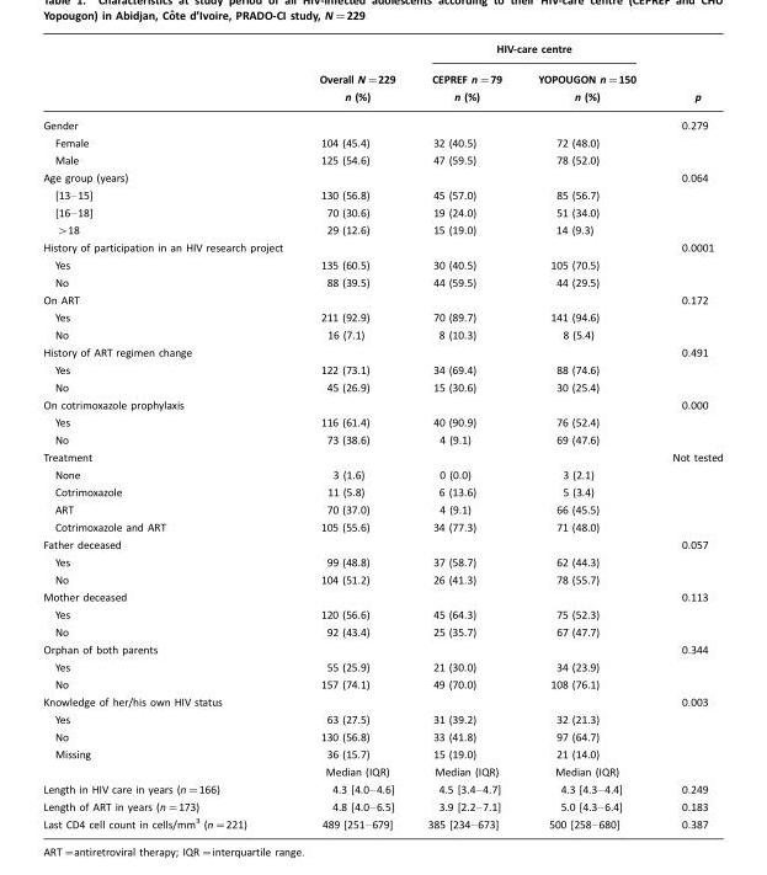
<table><thead><tr><td rowspan="2"></td><td rowspan="2">Overall N=229 n (%)</td><td colspan="2">HIV-care centre</td><td rowspan="2">p</td></tr><tr><td>CEPREF n=79 n (%)</td><td>YOPOUGON n=150 n (%)</td></tr></thead><tbody><tr><td>Gender</td><td></td><td></td><td></td><td>0.279</td></tr><tr><td>Female</td><td>104 (45.4)</td><td>32 (40.5)</td><td>72 (48.0)</td><td></td></tr><tr><td>Male</td><td>125 (54.6)</td><td>47 (59.5)</td><td>78 (52.0)</td><td></td></tr><tr><td>Age group (years)</td><td></td><td></td><td></td><td>0.064</td></tr><tr><td>[13–15]</td><td>130 (56.8)</td><td>45 (57.0)</td><td>85 (56.7)</td><td></td></tr><tr><td>[16–18]</td><td>70 (30.6)</td><td>19 (24.0)</td><td>51 (34.0)</td><td></td></tr><tr><td>&gt;18</td><td>29 (12.6)</td><td>15 (19.0)</td><td>14 (9.3)</td><td></td></tr><tr><td>History of participation in an HIV research project</td><td></td><td></td><td></td><td>0.0001</td></tr><tr><td>Yes</td><td>135 (60.5)</td><td>30 (40.5)</td><td>105 (70.5)</td><td></td></tr><tr><td>No</td><td>88 (39.5)</td><td>44 (59.5)</td><td>44 (29.5)</td><td></td></tr><tr><td>On ART</td><td></td><td></td><td></td><td>0.172</td></tr><tr><td>Yes</td><td>211 (92.9)</td><td>70 (89.7)</td><td>141 (94.6)</td><td></td></tr><tr><td>No</td><td>16 (7.1)</td><td>8 (10.3)</td><td>8 (5.4)</td><td></td></tr><tr><td>History of ART regimen change</td><td></td><td></td><td></td><td>0.491</td></tr><tr><td>Yes</td><td>122 (73.1)</td><td>34 (69.4)</td><td>88 (74.6)</td><td></td></tr><tr><td>No</td><td>45 (26.9)</td><td>15 (30.6)</td><td>30 (25.4)</td><td></td></tr><tr><td>On cotrimoxazole prophylaxis</td><td></td><td></td><td></td><td>0.000</td></tr><tr><td>Yes</td><td>116 (61.4)</td><td>40 (90.9)</td><td>76 (52.4)</td><td></td></tr><tr><td>No</td><td>73 (38.6)</td><td>4 (9.1)</td><td>69 (47.6)</td><td></td></tr><tr><td>Treatment</td><td></td><td></td><td></td><td>Not tested</td></tr><tr><td>None</td><td>3 (1.6)</td><td>0 (0.0)</td><td>3 (2.1)</td><td></td></tr><tr><td>Cotrimoxazole</td><td>11 (5.8)</td><td>6 (13.6)</td><td>5 (3.4)</td><td></td></tr><tr><td>ART</td><td>70 (37.0)</td><td>4 (9.1)</td><td>66 (45.5)</td><td></td></tr><tr><td>Cotrimoxazole and ART</td><td>105 (55.6)</td><td>34 (77.3)</td><td>71 (48.0)</td><td></td></tr><tr><td>Father deceased</td><td></td><td></td><td></td><td>0.057</td></tr><tr><td>Yes</td><td>99 (48.8)</td><td>37 (58.7)</td><td>62 (44.3)</td><td></td></tr><tr><td>No</td><td>104 (51.2)</td><td>26 (41.3)</td><td>78 (55.7)</td><td></td></tr><tr><td>Mother deceased</td><td></td><td></td><td></td><td>0.113</td></tr><tr><td>Yes</td><td>120 (56.6)</td><td>45 (64.3)</td><td>75 (52.3)</td><td></td></tr><tr><td>No</td><td>92 (43.4)</td><td>25 (35.7)</td><td>67 (47.7)</td><td></td></tr><tr><td>Orphan of both parents</td><td></td><td></td><td></td><td>0.344</td></tr><tr><td>Yes</td><td>55 (25.9)</td><td>21 (30.0)</td><td>34 (23.9)</td><td></td></tr><tr><td>No</td><td>157 (74.1)</td><td>49 (70.0)</td><td>108 (76.1)</td><td></td></tr><tr><td>Knowledge of her/his own HIV status</td><td></td><td></td><td></td><td>0.003</td></tr><tr><td>Yes</td><td>63 (27.5)</td><td>31 (39.2)</td><td>32 (21.3)</td><td></td></tr><tr><td>No</td><td>130 (56.8)</td><td>33 (41.8)</td><td>97 (64.7)</td><td></td></tr><tr><td rowspan="2">Missing</td><td>36 (15.7)</td><td>15 (19.0)</td><td>21 (14.0)</td><td></td></tr><tr><td>Median (IQR)</td><td>Median (IQR)</td><td>Median (IQR)</td><td></td></tr><tr><td>Length in HIV care in years (n=166)</td><td>4.3 [4.0–4.6]</td><td>4.5 [3.4–4.7]</td><td>4.3 [4.3–4.4]</td><td>0.249</td></tr><tr><td>Length of ART in years (n=173)</td><td>4.8 [4.0–6.5]</td><td>3.9 [2.2–7.1]</td><td>5.0 [4.3–6.4]</td><td>0.183</td></tr><tr><td>Last CD4 cell count in cells/mm<sup>3</sup> (n=221)</td><td>489 [251–679]</td><td>385 [234–673]</td><td>500 [258–680]</td><td>0.387</td></tr></tbody></table>